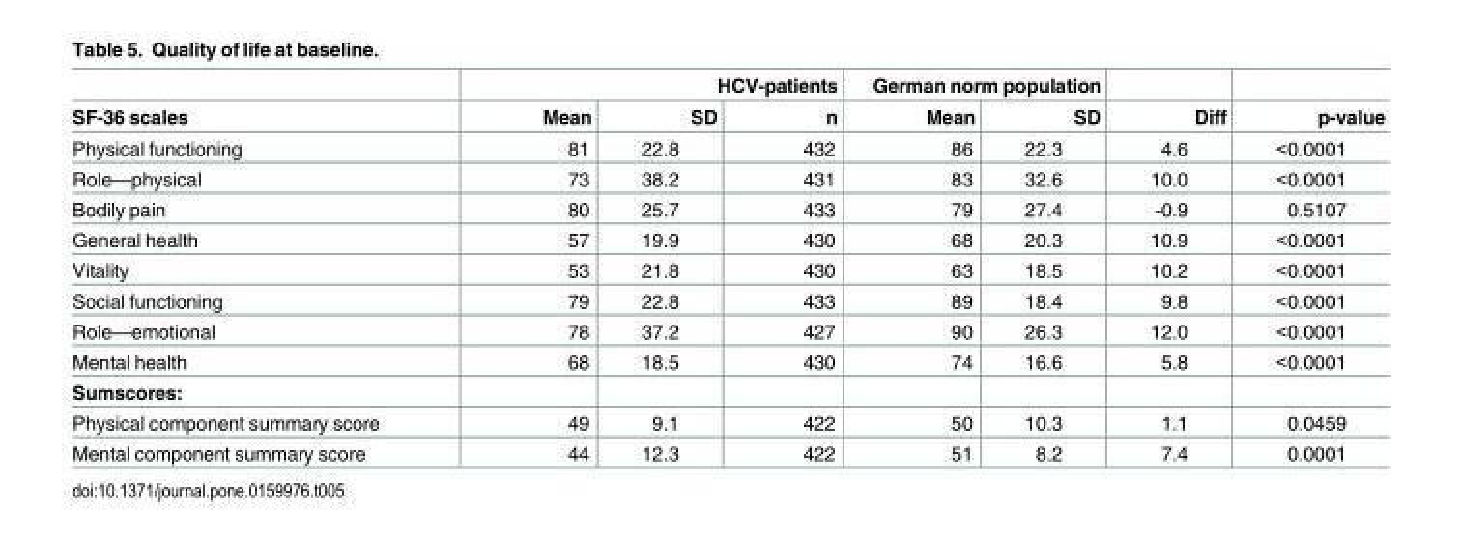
<table><thead><tr><td rowspan="2">SF-36 scales</td><td colspan="3">HCV-patients</td><td colspan="2">German norm population</td><td rowspan="2">Diff</td><td rowspan="2">p-value</td></tr><tr><td>Mean</td><td>SD</td><td>n</td><td>Mean</td><td>SD</td></tr></thead><tbody><tr><td>Physical functioning</td><td>81</td><td>22.8</td><td>432</td><td>86</td><td>22.3</td><td>4.6</td><td>&lt;0.0001</td></tr><tr><td>Role—physical</td><td>73</td><td>38.2</td><td>431</td><td>83</td><td>32.6</td><td>10.0</td><td>&lt;0.0001</td></tr><tr><td>Bodily pain</td><td>80</td><td>25.7</td><td>433</td><td>79</td><td>27.4</td><td>-0.9</td><td>0.5107</td></tr><tr><td>General health</td><td>57</td><td>19.9</td><td>430</td><td>68</td><td>20.3</td><td>10.9</td><td>&lt;0.0001</td></tr><tr><td>Vitality</td><td>53</td><td>21.8</td><td>430</td><td>63</td><td>18.5</td><td>10.2</td><td>&lt;0.0001</td></tr><tr><td>Social functioning</td><td>79</td><td>22.8</td><td>433</td><td>89</td><td>18.4</td><td>9.8</td><td>&lt;0.0001</td></tr><tr><td>Role—emotional</td><td>78</td><td>37.2</td><td>427</td><td>90</td><td>26.3</td><td>12.0</td><td>&lt;0.0001</td></tr><tr><td>Mental health</td><td>68</td><td>18.5</td><td>430</td><td>74</td><td>16.6</td><td>5.8</td><td>&lt;0.0001</td></tr><tr><td colspan="8">Sumscores:</td></tr><tr><td>Physical component summary score</td><td>49</td><td>9.1</td><td>422</td><td>50</td><td>10.3</td><td>1.1</td><td>0.0459</td></tr><tr><td>Mental component summary score</td><td>44</td><td>12.3</td><td>422</td><td>51</td><td>8.2</td><td>7.4</td><td>0.0001</td></tr></tbody></table>